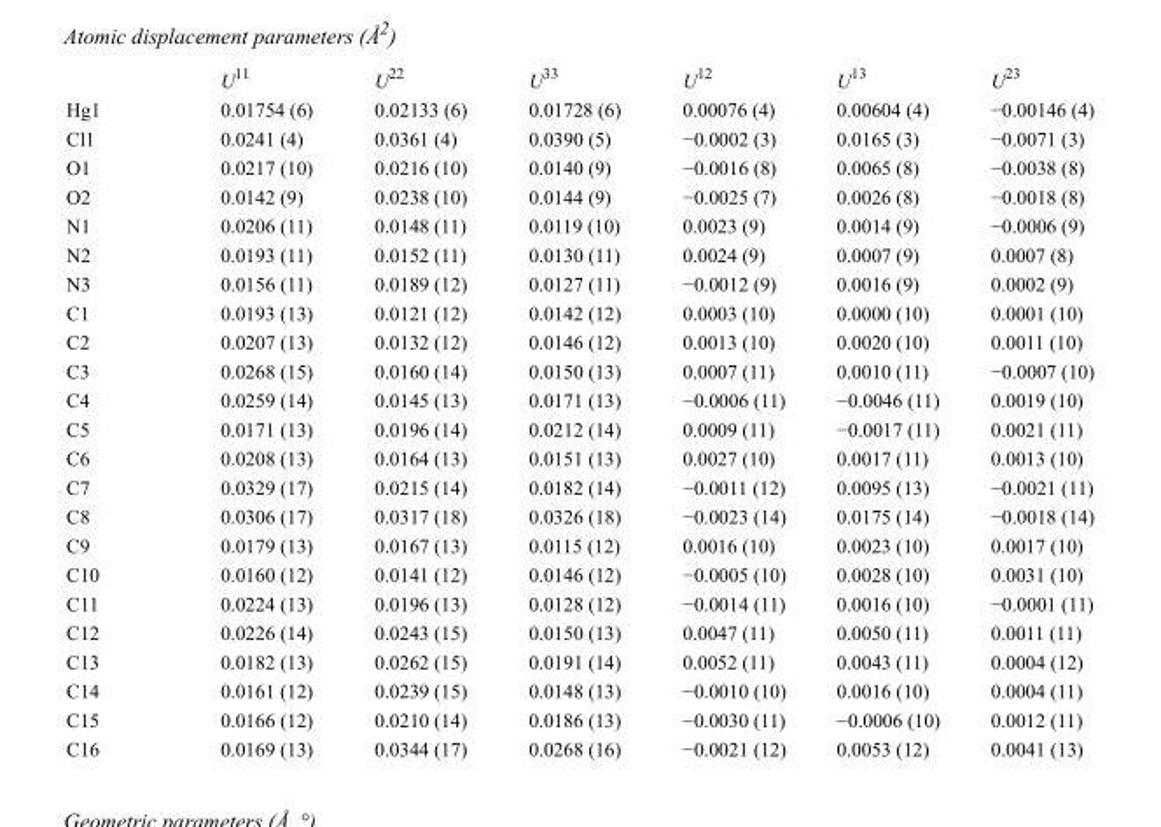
<table><thead><tr><td></td><td>U<sup>11</sup></td><td>U<sup>22</sup></td><td>U<sup>33</sup></td><td>U<sup>12</sup></td><td>U<sup>13</sup></td><td>U<sup>23</sup></td></tr></thead><tbody><tr><td>Hg1</td><td>0.01754 (6)</td><td>0.02133 (6)</td><td>0.01728 (6)</td><td>0.00076 (4)</td><td>0.00604 (4)</td><td>−0.00146 (4)</td></tr><tr><td>Cl1</td><td>0.0241 (4)</td><td>0.0361 (4)</td><td>0.0390 (5)</td><td>−0.0002 (3)</td><td>0.0165 (3)</td><td>−0.0071 (3)</td></tr><tr><td>O1</td><td>0.0217 (10)</td><td>0.0216 (10)</td><td>0.0140 (9)</td><td>−0.0016 (8)</td><td>0.0065 (8)</td><td>−0.0038 (8)</td></tr><tr><td>O2</td><td>0.0142 (9)</td><td>0.0238 (10)</td><td>0.0144 (9)</td><td>−0.0025 (7)</td><td>0.0026 (8)</td><td>−0.0018 (8)</td></tr><tr><td>N1</td><td>0.0206 (11)</td><td>0.0148 (11)</td><td>0.0119 (10)</td><td>0.0023 (9)</td><td>0.0014 (9)</td><td>−0.0006 (9)</td></tr><tr><td>N2</td><td>0.0193 (11)</td><td>0.0152 (11)</td><td>0.0130 (11)</td><td>0.0024 (9)</td><td>0.0007 (9)</td><td>0.0007 (8)</td></tr><tr><td>N3</td><td>0.0156 (11)</td><td>0.0189 (12)</td><td>0.0127 (11)</td><td>−0.0012 (9)</td><td>0.0016 (9)</td><td>0.0002 (9)</td></tr><tr><td>C1</td><td>0.0193 (13)</td><td>0.0121 (12)</td><td>0.0142 (12)</td><td>0.0003 (10)</td><td>0.0000 (10)</td><td>0.0001 (10)</td></tr><tr><td>C2</td><td>0.0207 (13)</td><td>0.0132 (12)</td><td>0.0146 (12)</td><td>0.0013 (10)</td><td>0.0020 (10)</td><td>0.0011 (10)</td></tr><tr><td>C3</td><td>0.0268 (15)</td><td>0.0160 (14)</td><td>0.0150 (13)</td><td>0.0007 (11)</td><td>0.0010 (11)</td><td>−0.0007 (10)</td></tr><tr><td>C4</td><td>0.0259 (14)</td><td>0.0145 (13)</td><td>0.0171 (13)</td><td>−0.0006 (11)</td><td>−0.0046 (11)</td><td>0.0019 (10)</td></tr><tr><td>C5</td><td>0.0171 (13)</td><td>0.0196 (14)</td><td>0.0212 (14)</td><td>0.0009 (11)</td><td>−0.0017 (11)</td><td>0.0021 (11)</td></tr><tr><td>C6</td><td>0.0208 (13)</td><td>0.0164 (13)</td><td>0.0151 (13)</td><td>0.0027 (10)</td><td>0.0017 (11)</td><td>0.0013 (10)</td></tr><tr><td>C7</td><td>0.0329 (17)</td><td>0.0215 (14)</td><td>0.0182 (14)</td><td>−0.0011 (12)</td><td>0.0095 (13)</td><td>−0.0021 (11)</td></tr><tr><td>C8</td><td>0.0306 (17)</td><td>0.0317 (18)</td><td>0.0326 (18)</td><td>−0.0023 (14)</td><td>0.0175 (14)</td><td>−0.0018 (14)</td></tr><tr><td>C9</td><td>0.0179 (13)</td><td>0.0167 (13)</td><td>0.0115 (12)</td><td>0.0016 (10)</td><td>0.0023 (10)</td><td>0.0017 (10)</td></tr><tr><td>C10</td><td>0.0160 (12)</td><td>0.0141 (12)</td><td>0.0146 (12)</td><td>−0.0005 (10)</td><td>0.0028 (10)</td><td>0.0031 (10)</td></tr><tr><td>C11</td><td>0.0224 (13)</td><td>0.0196 (13)</td><td>0.0128 (12)</td><td>−0.0014 (11)</td><td>0.0016 (10)</td><td>−0.0001 (11)</td></tr><tr><td>C12</td><td>0.0226 (14)</td><td>0.0243 (15)</td><td>0.0150 (13)</td><td>0.0047 (11)</td><td>0.0050 (11)</td><td>0.0011 (11)</td></tr><tr><td>C13</td><td>0.0182 (13)</td><td>0.0262 (15)</td><td>0.0191 (14)</td><td>0.0052 (11)</td><td>0.0043 (11)</td><td>0.0004 (12)</td></tr><tr><td>C14</td><td>0.0161 (12)</td><td>0.0239 (15)</td><td>0.0148 (13)</td><td>−0.0010 (10)</td><td>0.0016 (10)</td><td>0.0004 (11)</td></tr><tr><td>C15</td><td>0.0166 (12)</td><td>0.0210 (14)</td><td>0.0186 (13)</td><td>−0.0030 (11)</td><td>−0.0006 (10)</td><td>0.0012 (11)</td></tr><tr><td>C16</td><td>0.0169 (13)</td><td>0.0344 (17)</td><td>0.0268 (16)</td><td>−0.0021 (12)</td><td>0.0053 (12)</td><td>0.0041 (13)</td></tr></tbody></table>